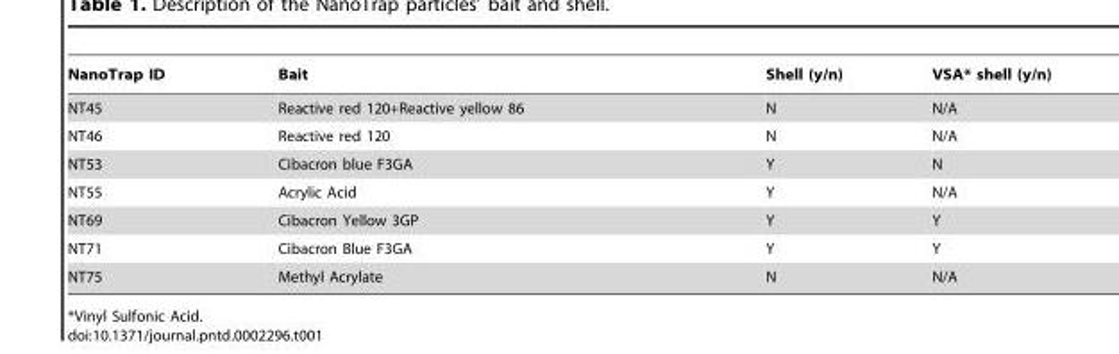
<table><thead><tr><td>NanoTrap ID</td><td>Bait</td><td>Shell (y/n)</td><td>VSA* shell (y/n)</td></tr></thead><tbody><tr><td>NT45</td><td>Reactive red 120+Reactive yellow 86</td><td>N</td><td>N/A</td></tr><tr><td>NT46</td><td>Reactive red 120</td><td>N</td><td>N/A</td></tr><tr><td>NT53</td><td>Cibacron blue F3GA</td><td>Y</td><td>N</td></tr><tr><td>NT55</td><td>Acrylic Acid</td><td>Y</td><td>N/A</td></tr><tr><td>NT69</td><td>Cibacron Yellow 3GP</td><td>Y</td><td>Y</td></tr><tr><td>NT71</td><td>Cibacron Blue F3GA</td><td>Y</td><td>Y</td></tr><tr><td>NT75</td><td>Methyl Acrylate</td><td>N</td><td>N/A</td></tr></tbody></table>